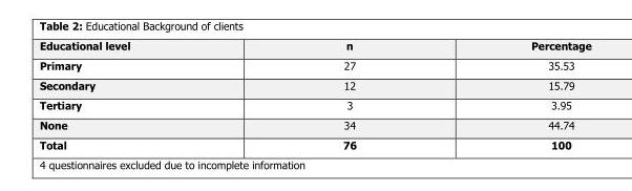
<table><thead><tr><td>Educational level</td><td>n</td><td>Percentage</td></tr></thead><tbody><tr><td>Primary</td><td>27</td><td>35.53</td></tr><tr><td>Secondary</td><td>12</td><td>15.79</td></tr><tr><td>Tertiary</td><td>3</td><td>3.95</td></tr><tr><td>None</td><td>34</td><td>44.74</td></tr><tr><td>Total</td><td>76</td><td>100</td></tr></tbody></table>